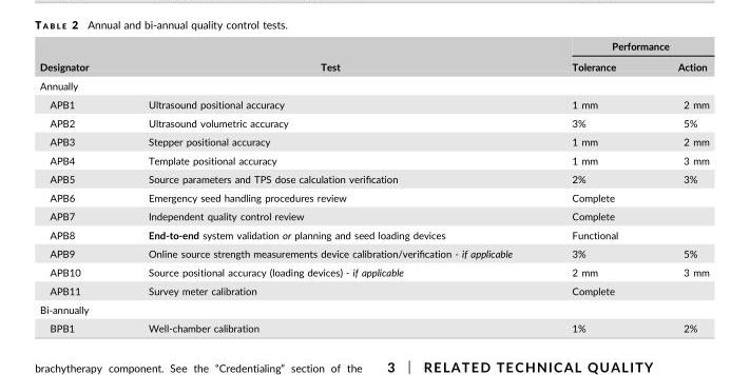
<table><thead><tr><td rowspan="2">Designator</td><td rowspan="2">Test</td><td colspan="2">Performance</td></tr><tr><td>Tolerance</td><td>Action</td></tr></thead><tbody><tr><td colspan="4">Annually</td></tr><tr><td>APB1</td><td>Ultrasound positional accuracy</td><td>1 mm</td><td>2 mm</td></tr><tr><td>APB2</td><td>Ultrasound volumetric accuracy</td><td>3%</td><td>5%</td></tr><tr><td>APB3</td><td>Stepper positional accuracy</td><td>1 mm</td><td>2 mm</td></tr><tr><td>APB4</td><td>Template positional accuracy</td><td>1 mm</td><td>3 mm</td></tr><tr><td>APB5</td><td>Source parameters and TPS dose calculation verification</td><td>2%</td><td>3%</td></tr><tr><td>APB6</td><td>Emergency seed handling procedures review</td><td colspan="2">Complete</td></tr><tr><td>APB7</td><td>Independent quality control review</td><td colspan="2">Complete</td></tr><tr><td>APB8</td><td>End-to-end system validation or planning and seed loading devices</td><td colspan="2">Functional</td></tr><tr><td>APB9</td><td>Online source strength measurements device calibration/verification - if applicable</td><td>3%</td><td>5%</td></tr><tr><td>APB10</td><td>Source positional accuracy (loading devices) - if applicable</td><td>2 mm</td><td>3 mm</td></tr><tr><td>APB11</td><td>Survey meter calibration</td><td colspan="2">Complete</td></tr><tr><td colspan="4">Bi-annually</td></tr><tr><td>BPB1</td><td>Well-chamber calibration</td><td>1%</td><td>2%</td></tr></tbody></table>